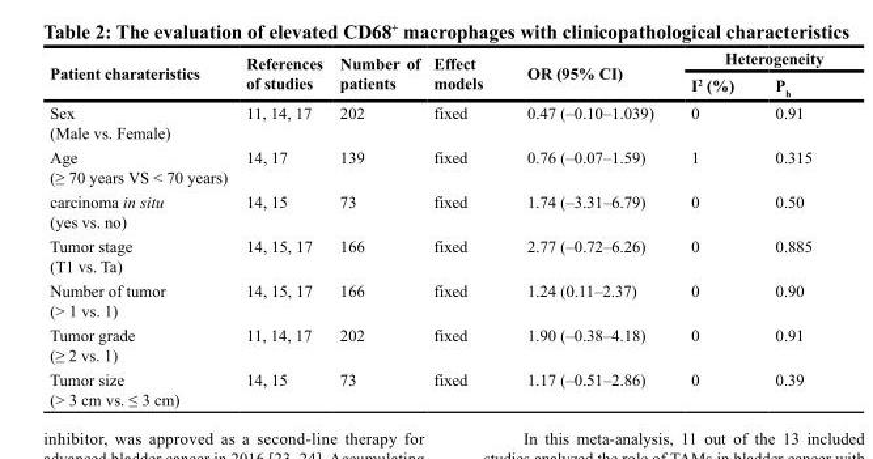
<table><thead><tr><td rowspan="2">Patient charateristics</td><td rowspan="2">References of studies</td><td rowspan="2">Number of patients</td><td rowspan="2">Effect models</td><td rowspan="2">OR (95% CI)</td><td colspan="2">Heterogeneity</td></tr><tr><td>I<sup>2</sup> (%)</td><td>P<sub>h</sub></td></tr></thead><tbody><tr><td>Sex (Male vs. Female)</td><td>11, 14, 17</td><td>202</td><td>fixed</td><td>0.47 (–0.10–1.039)</td><td>0</td><td>0.91</td></tr><tr><td>Age (≥ 70 years VS &lt; 70 years)</td><td>14, 17</td><td>139</td><td>fixed</td><td>0.76 (–0.07–1.59)</td><td>1</td><td>0.315</td></tr><tr><td>carcinoma in situ (yes vs. no)</td><td>14, 15</td><td>73</td><td>fixed</td><td>1.74 (–3.31–6.79)</td><td>0</td><td>0.50</td></tr><tr><td>Tumor stage (T1 vs. Ta)</td><td>14, 15, 17</td><td>166</td><td>fixed</td><td>2.77 (–0.72–6.26)</td><td>0</td><td>0.885</td></tr><tr><td>Number of tumor (&gt; 1 vs. 1)</td><td>14, 15, 17</td><td>166</td><td>fixed</td><td>1.24 (0.11–2.37)</td><td>0</td><td>0.90</td></tr><tr><td>Tumor grade (≥ 2 vs. 1)</td><td>11, 14, 17</td><td>202</td><td>fixed</td><td>1.90 (–0.38–4.18)</td><td>0</td><td>0.91</td></tr><tr><td>Tumor size (&gt; 3 cm vs. ≤ 3 cm)</td><td>14, 15</td><td>73</td><td>fixed</td><td>1.17 (–0.51–2.86)</td><td>0</td><td>0.39</td></tr></tbody></table>